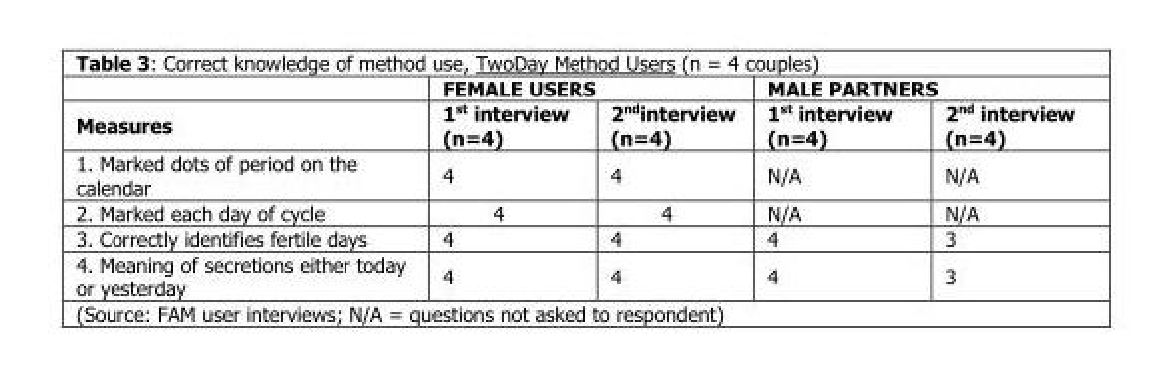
<table><thead><tr><td rowspan="2">Measures</td><td colspan="2">FEMALE USERS</td><td colspan="2">MALE PARTNERS</td></tr><tr><td>1<sup>st</sup> interview (n=4)</td><td>2<sup>nd</sup>interview (n=4)</td><td>1<sup>st</sup> interview (n=4)</td><td>2<sup>nd</sup> interview (n=4)</td></tr></thead><tbody><tr><td>1. Marked dots of period on the calendar</td><td>4</td><td>4</td><td>N/A</td><td>N/A</td></tr><tr><td>2. Marked each day of cycle</td><td>4</td><td>4</td><td>N/A</td><td>N/A</td></tr><tr><td>3. Correctly identifies fertile days</td><td>4</td><td>4</td><td>4</td><td>3</td></tr><tr><td>4. Meaning of secretions either today or yesterday</td><td>4</td><td>4</td><td>4</td><td>3</td></tr></tbody></table>